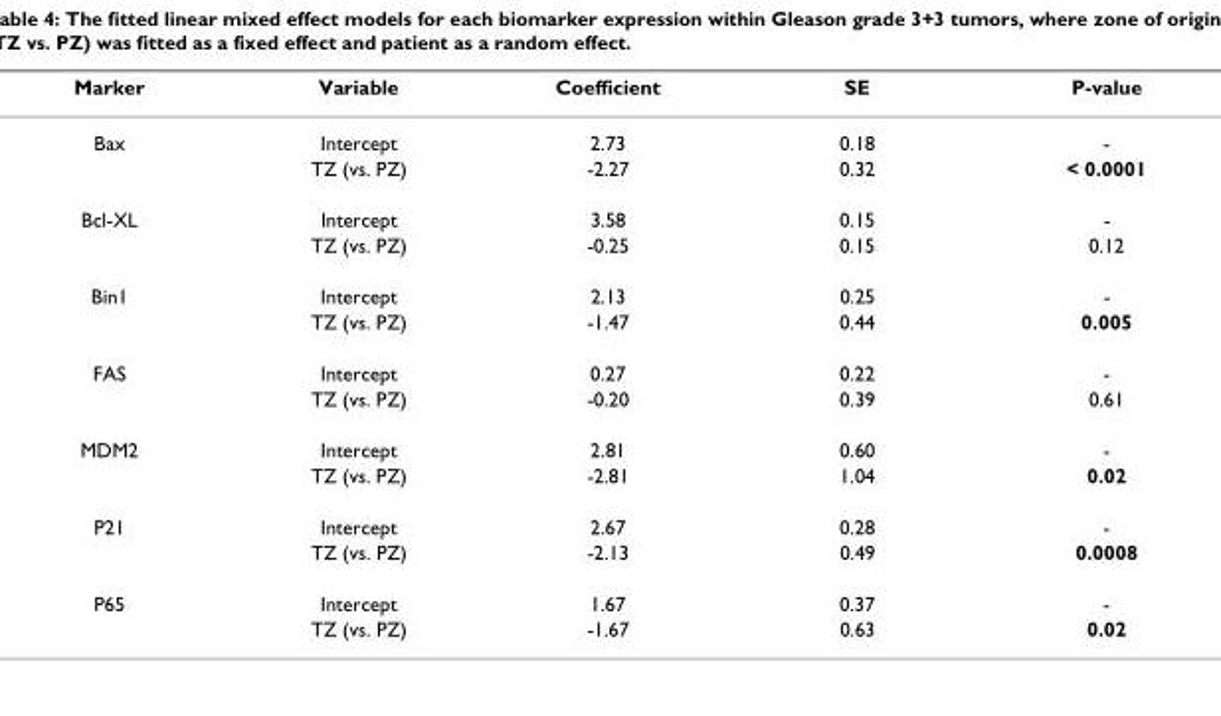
<table><thead><tr><td>Marker</td><td>Variable</td><td>Coefficient</td><td>SE</td><td>P-value</td></tr></thead><tbody><tr><td rowspan="2">Bax</td><td>Intercept</td><td>2.73</td><td>0.18</td><td>-</td></tr><tr><td>TZ (vs. PZ)</td><td>-2.27</td><td>0.32</td><td>&lt; 0.0001</td></tr><tr><td rowspan="2">Bcl-XL</td><td>Intercept</td><td>3.58</td><td>0.15</td><td>-</td></tr><tr><td>TZ (vs. PZ)</td><td>-0.25</td><td>0.15</td><td>0.12</td></tr><tr><td rowspan="2">Bin1</td><td>Intercept</td><td>2.13</td><td>0.25</td><td>-</td></tr><tr><td>TZ (vs. PZ)</td><td>-1.47</td><td>0.44</td><td>0.005</td></tr><tr><td rowspan="2">FAS</td><td>Intercept</td><td>0.27</td><td>0.22</td><td>-</td></tr><tr><td>TZ (vs. PZ)</td><td>-0.20</td><td>0.39</td><td>0.61</td></tr><tr><td rowspan="2">MDM2</td><td>Intercept</td><td>2.81</td><td>0.60</td><td>-</td></tr><tr><td>TZ (vs. PZ)</td><td>-2.81</td><td>1.04</td><td>0.02</td></tr><tr><td rowspan="2">P21</td><td>Intercept</td><td>2.67</td><td>0.28</td><td>-</td></tr><tr><td>TZ (vs. PZ)</td><td>-2.13</td><td>0.49</td><td>0.0008</td></tr><tr><td rowspan="2">P65</td><td>Intercept</td><td>1.67</td><td>0.37</td><td>-</td></tr><tr><td>TZ (vs. PZ)</td><td>-1.67</td><td>0.63</td><td>0.02</td></tr></tbody></table>